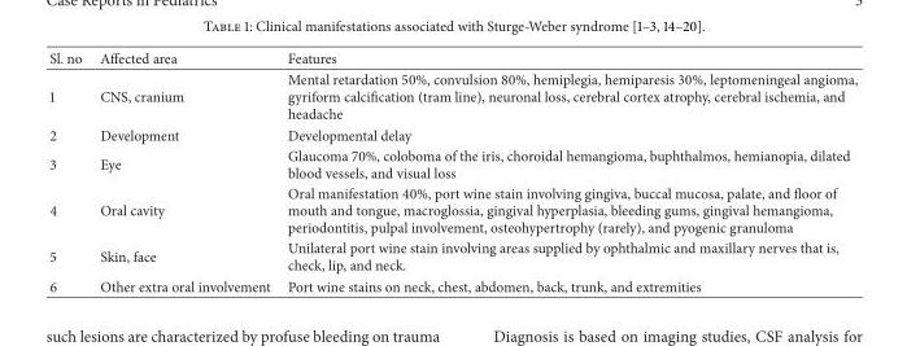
<table><thead><tr><td>Sl. no</td><td>Affected area</td><td>Features</td></tr></thead><tbody><tr><td>1</td><td>CNS, cranium</td><td>Mental retardation 50%, convulsion 80%, hemiplegia, hemiparesis 30%, leptomeningeal angioma, gyriform calcification (tram line), neuronal loss, cerebral cortex atrophy, cerebral ischemia, and headache</td></tr><tr><td>2</td><td>Development</td><td>Developmental delay</td></tr><tr><td>3</td><td>Eye</td><td>Glaucoma 70%, coloboma of the iris, choroidal hemangioma, buphthalmos, hemianopia, dilated blood vessels, and visual loss</td></tr><tr><td>4</td><td>Oral cavity</td><td>Oral manifestation 40%, port wine stain involving gingiva, buccal mucosa, palate, and floor of mouth and tongue, macroglossia, gingival hyperplasia, bleeding gums, gingival hemangioma, periodontitis, pulpal involvement, osteohypertrophy (rarely), and pyogenic granuloma</td></tr><tr><td>5</td><td>Skin, face</td><td>Unilateral port wine stain involving areas supplied by ophthalmic and maxillary nerves that is, check, lip, and neck.</td></tr><tr><td>6</td><td>Other extra oral involvement</td><td>Port wine stains on neck, chest, abdomen, back, trunk, and extremities</td></tr></tbody></table>